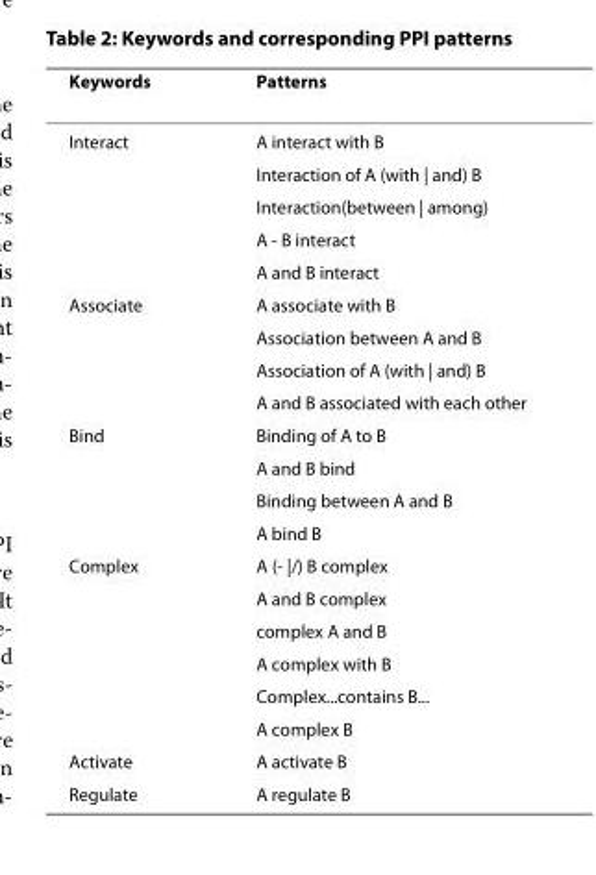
<table><thead><tr><td>Keywords</td><td>Patterns</td></tr></thead><tbody><tr><td rowspan="5">Interact</td><td>A interact with B</td></tr><tr><td>Interaction of A (with | and) B</td></tr><tr><td>Interaction(between | among)</td></tr><tr><td>A - B interact</td></tr><tr><td>A and B interact</td></tr><tr><td rowspan="4">Associate</td><td>A associate with B</td></tr><tr><td>Association between A and B</td></tr><tr><td>Association of A (with | and) B</td></tr><tr><td>A and B associated with each other</td></tr><tr><td rowspan="4">Bind</td><td>Binding of A to B</td></tr><tr><td>A and B bind</td></tr><tr><td>Binding between A and B</td></tr><tr><td>A bind B</td></tr><tr><td rowspan="6">Complex</td><td>A (- |/) B complex</td></tr><tr><td>A and B complex</td></tr><tr><td>complex A and B</td></tr><tr><td>A complex with B</td></tr><tr><td>Complex...contains B...</td></tr><tr><td>A complex B</td></tr><tr><td>Activate</td><td>A activate B</td></tr><tr><td>Regulate</td><td>A regulate B</td></tr></tbody></table>